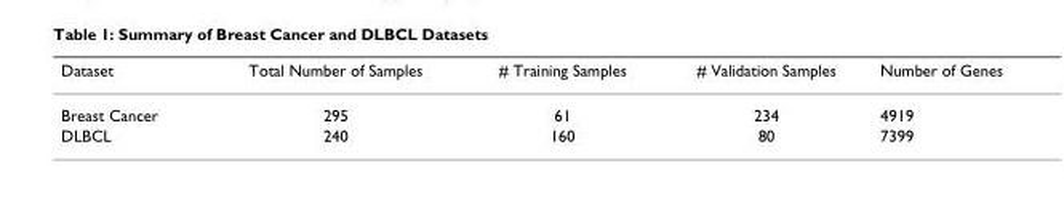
<table><thead><tr><td>Dataset</td><td>Total Number of Samples</td><td># Training Samples</td><td># Validation Samples</td><td>Number of Genes</td></tr></thead><tbody><tr><td>Breast Cancer</td><td>295</td><td>61</td><td>234</td><td>4919</td></tr><tr><td>DLBCL</td><td>240</td><td>160</td><td>80</td><td>7399</td></tr></tbody></table>